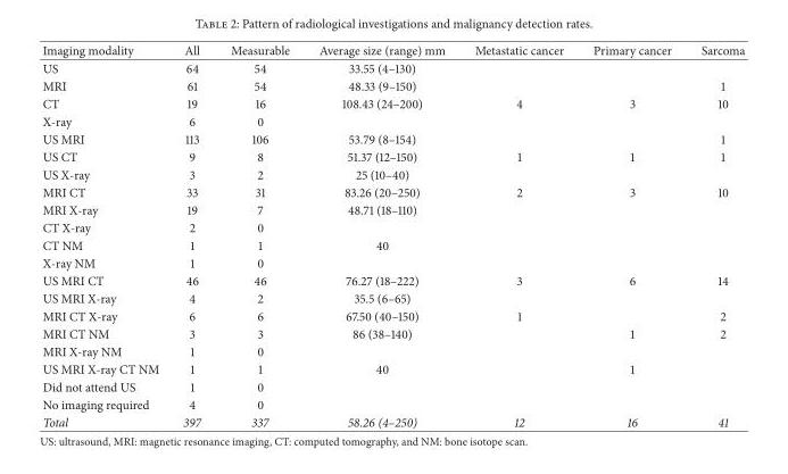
<table><thead><tr><td>Imaging modality</td><td>All</td><td>Measurable</td><td>Average size (range) mm</td><td>Metastatic cancer</td><td>Primary cancer</td><td>Sarcoma</td></tr></thead><tbody><tr><td>US</td><td>64</td><td>54</td><td>33.55 (4–130)</td><td></td><td></td><td></td></tr><tr><td>MRI</td><td>61</td><td>54</td><td>48.33 (9–150)</td><td></td><td></td><td>1</td></tr><tr><td>CT</td><td>19</td><td>16</td><td>108.43 (24–200)</td><td>4</td><td>3</td><td>10</td></tr><tr><td>X-ray</td><td>6</td><td>0</td><td></td><td></td><td></td><td></td></tr><tr><td>US MRI</td><td>113</td><td>106</td><td>53.79 (8–154)</td><td></td><td></td><td>1</td></tr><tr><td>US CT</td><td>9</td><td>8</td><td>51.37 (12–150)</td><td>1</td><td>1</td><td>1</td></tr><tr><td>US X-ray</td><td>3</td><td>2</td><td>25 (10–40)</td><td></td><td></td><td></td></tr><tr><td>MRI CT</td><td>33</td><td>31</td><td>83.26 (20–250)</td><td>2</td><td>3</td><td>10</td></tr><tr><td>MRI X-ray</td><td>19</td><td>7</td><td>48.71 (18–110)</td><td></td><td></td><td></td></tr><tr><td>CT X-ray</td><td>2</td><td>0</td><td></td><td></td><td></td><td></td></tr><tr><td>CT NM</td><td>1</td><td>1</td><td>40</td><td></td><td></td><td></td></tr><tr><td>X-ray NM</td><td>1</td><td>0</td><td></td><td></td><td></td><td></td></tr><tr><td>US MRI CT</td><td>46</td><td>46</td><td>76.27 (18–222)</td><td>3</td><td>6</td><td>14</td></tr><tr><td>US MRI X-ray</td><td>4</td><td>2</td><td>35.5 (6–65)</td><td></td><td></td><td></td></tr><tr><td>MRI CT X-ray</td><td>6</td><td>6</td><td>67.50 (40–150)</td><td>1</td><td></td><td>2</td></tr><tr><td>MRI CT NM</td><td>3</td><td>3</td><td>86 (38–140)</td><td></td><td>1</td><td>2</td></tr><tr><td>MRI X-ray NM</td><td>1</td><td>0</td><td></td><td></td><td></td><td></td></tr><tr><td>US MRI X-ray CT NM</td><td>1</td><td>1</td><td>40</td><td></td><td>1</td><td></td></tr><tr><td>Did not attend US</td><td>1</td><td>0</td><td></td><td></td><td></td><td></td></tr><tr><td>No imaging required</td><td>4</td><td>0</td><td></td><td></td><td></td><td></td></tr><tr><td>Total</td><td>397</td><td>337</td><td>58.26 (4–250)</td><td>12</td><td>16</td><td>41</td></tr></tbody></table>